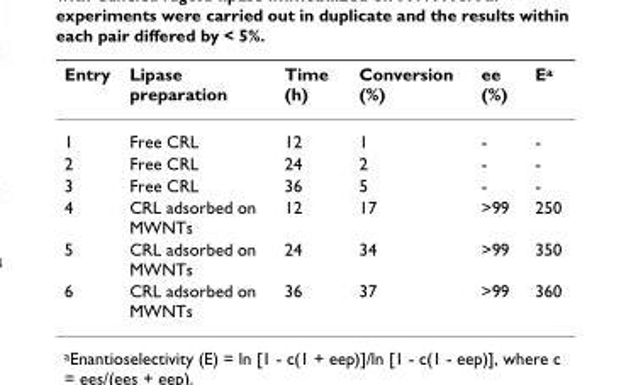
<table><thead><tr><td>Entry</td><td>Lipase preparation</td><td>Time (h)</td><td>Conversion (%)</td><td>ee (%)</td><td>E<sup>a</sup></td></tr></thead><tbody><tr><td>1</td><td>Free CRL</td><td>12</td><td>1</td><td>-</td><td>-</td></tr><tr><td>2</td><td>Free CRL</td><td>24</td><td>2</td><td>-</td><td>-</td></tr><tr><td>3</td><td>Free CRL</td><td>36</td><td>5</td><td>-</td><td>-</td></tr><tr><td>4</td><td>CRL adsorbed on MWNTs</td><td>12</td><td>17</td><td>&gt;99</td><td>250</td></tr><tr><td>5</td><td>CRL adsorbed on MWNTs</td><td>24</td><td>34</td><td>&gt;99</td><td>350</td></tr><tr><td>6</td><td>CRL adsorbed on MWNTs</td><td>36</td><td>37</td><td>&gt;99</td><td>360</td></tr></tbody></table>